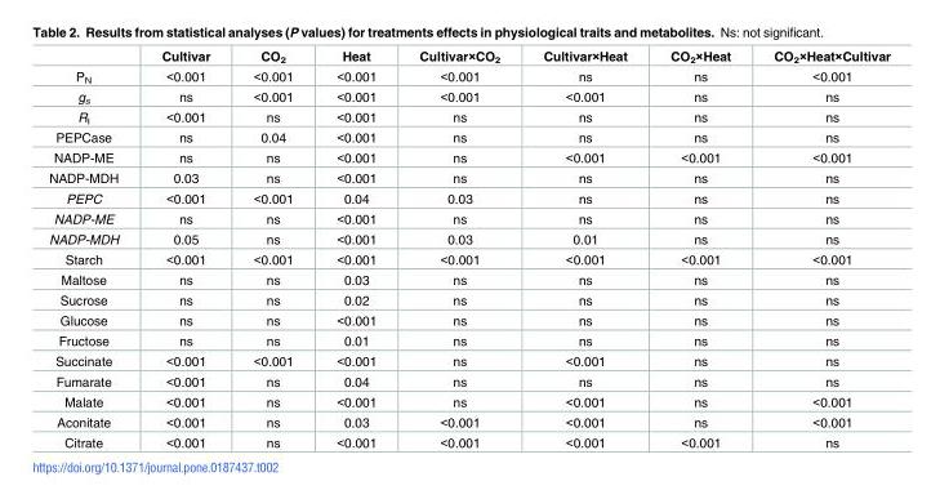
<table><thead><tr><td></td><td>Cultivar</td><td>CO<sub>2</sub></td><td>Heat</td><td>Cultivar×CO<sub>2</sub></td><td>Cultivar×Heat</td><td>CO<sub>2</sub>×Heat</td><td>CO<sub>2</sub>×Heat×Cultivar</td></tr></thead><tbody><tr><td>P<sub>N</sub></td><td>&lt;0.001</td><td>&lt;0.001</td><td>&lt;0.001</td><td>&lt;0.001</td><td>ns</td><td>ns</td><td>&lt;0.001</td></tr><tr><td>g<sub>s</sub></td><td>ns</td><td>&lt;0.001</td><td>&lt;0.001</td><td>&lt;0.001</td><td>&lt;0.001</td><td>ns</td><td>ns</td></tr><tr><td>R<sub>I</sub></td><td>&lt;0.001</td><td>ns</td><td>&lt;0.001</td><td>ns</td><td>ns</td><td>ns</td><td>ns</td></tr><tr><td>PEPCase</td><td>ns</td><td>0.04</td><td>&lt;0.001</td><td>ns</td><td>ns</td><td>ns</td><td>ns</td></tr><tr><td>NADP-ME</td><td>ns</td><td>ns</td><td>&lt;0.001</td><td>ns</td><td>&lt;0.001</td><td>&lt;0.001</td><td>&lt;0.001</td></tr><tr><td>NADP-MDH</td><td>0.03</td><td>ns</td><td>&lt;0.001</td><td>ns</td><td>ns</td><td>ns</td><td>ns</td></tr><tr><td>PEPC</td><td>&lt;0.001</td><td>&lt;0.001</td><td>0.04</td><td>0.03</td><td>ns</td><td>ns</td><td>ns</td></tr><tr><td>NADP-ME</td><td>ns</td><td>ns</td><td>&lt;0.001</td><td>ns</td><td>ns</td><td>ns</td><td>ns</td></tr><tr><td>NADP-MDH</td><td>0.05</td><td>ns</td><td>&lt;0.001</td><td>0.03</td><td>0.01</td><td>ns</td><td>ns</td></tr><tr><td>Starch</td><td>&lt;0.001</td><td>&lt;0.001</td><td>&lt;0.001</td><td>&lt;0.001</td><td>&lt;0.001</td><td>&lt;0.001</td><td>&lt;0.001</td></tr><tr><td>Maltose</td><td>ns</td><td>ns</td><td>0.03</td><td>ns</td><td>ns</td><td>ns</td><td>ns</td></tr><tr><td>Sucrose</td><td>ns</td><td>ns</td><td>0.02</td><td>ns</td><td>ns</td><td>ns</td><td>ns</td></tr><tr><td>Glucose</td><td>ns</td><td>ns</td><td>&lt;0.001</td><td>ns</td><td>ns</td><td>ns</td><td>ns</td></tr><tr><td>Fructose</td><td>ns</td><td>ns</td><td>0.01</td><td>ns</td><td>ns</td><td>ns</td><td>ns</td></tr><tr><td>Succinate</td><td>&lt;0.001</td><td>&lt;0.001</td><td>&lt;0.001</td><td>ns</td><td>&lt;0.001</td><td>ns</td><td>ns</td></tr><tr><td>Fumarate</td><td>&lt;0.001</td><td>ns</td><td>0.04</td><td>ns</td><td>ns</td><td>ns</td><td>ns</td></tr><tr><td>Malate</td><td>&lt;0.001</td><td>ns</td><td>&lt;0.001</td><td>ns</td><td>&lt;0.001</td><td>ns</td><td>&lt;0.001</td></tr><tr><td>Aconitate</td><td>&lt;0.001</td><td>ns</td><td>0.03</td><td>&lt;0.001</td><td>&lt;0.001</td><td>ns</td><td>&lt;0.001</td></tr><tr><td>Citrate</td><td>&lt;0.001</td><td>ns</td><td>&lt;0.001</td><td>&lt;0.001</td><td>&lt;0.001</td><td>&lt;0.001</td><td>ns</td></tr></tbody></table>